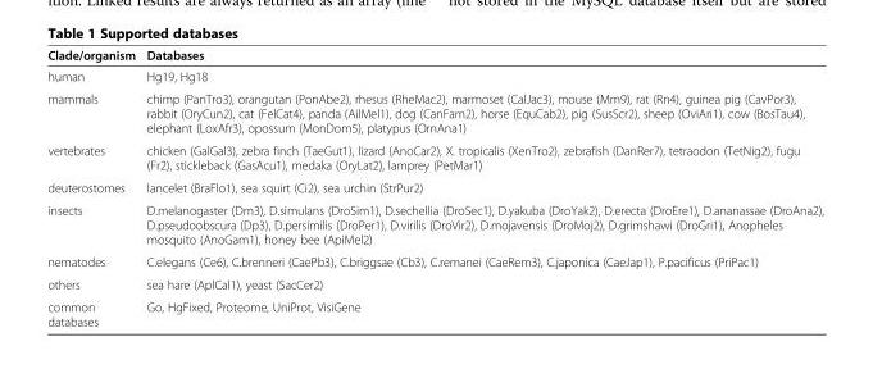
<table><thead><tr><td>Clade/organism</td><td>Databases</td></tr></thead><tbody><tr><td>human</td><td>Hg19, Hg18</td></tr><tr><td>mammals</td><td>chimp (PanTro3), orangutan (PonAbe2), rhesus (RheMac2), marmoset (CalJac3), mouse (Mm9), rat (Rn4), guinea pig (CavPor3), rabbit (OryCun2), cat (FelCat4), panda (AilMel1), dog (CanFam2), horse (EquCab2), pig (SusScr2), sheep (OviAri1), cow (BosTau4), elephant (LoxAfr3), opossum (MonDom5), platypus (OrnAna1)</td></tr><tr><td>vertebrates</td><td>chicken (GalGal3), zebra finch (TaeGut1), lizard (AnoCar2), X. tropicalis (XenTro2), zebrafish (DanRer7), tetraodon (TetNig2), fugu (Fr2), stickleback (GasAcu1), medaka (OryLat2), lamprey (PetMar1)</td></tr><tr><td>deuterostomes</td><td>lancelet (BraFlo1), sea squirt (Ci2), sea urchin (StrPur2)</td></tr><tr><td>insects</td><td>D.melanogaster (Dm3), D.simulans (DroSim1), D.sechellia (DroSec1), D.yakuba (DroYak2), D.erecta (DroEre1), D.ananassae (DroAna2), D.pseudoobscura (Dp3), D.persimilis (DroPer1), D.virilis (DroVir2), D.mojavensis (DroMoj2), D.grimshawi (DroGri1), Anopheles mosquito (AnoGam1), honey bee (ApiMel2)</td></tr><tr><td>nematodes</td><td>C.elegans (Ce6), C.brenneri (CaePb3), C.briggsae (Cb3), C.remanei (CaeRem3), C.japonica (CaeJap1), P.pacificus (PriPac1)</td></tr><tr><td>others</td><td>sea hare (AplCal1), yeast (SacCer2)</td></tr><tr><td>common databases</td><td>Go, HgFixed, Proteome, UniProt, VisiGene</td></tr></tbody></table>